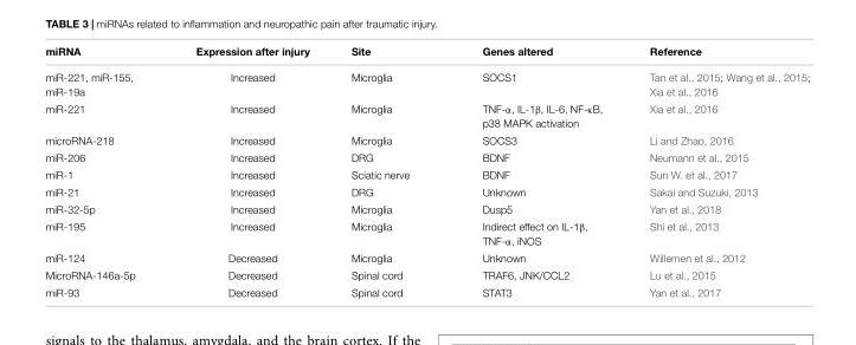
<table><thead><tr><td>miRNA</td><td>Expression after injury</td><td>Site</td><td>Genes altered</td><td>Reference</td></tr></thead><tbody><tr><td>miR-221, miR-155, miR-19a</td><td>Increased</td><td>Microglia</td><td>SOCS1</td><td>Tan et al., 2015; Wang et al., 2015; Xia et al., 2016</td></tr><tr><td>miR-221</td><td>Increased</td><td>Microglia</td><td>TNF-α, IL-1β, IL-6, NF-κB, p38 MAPK activation</td><td>Xia et al., 2016</td></tr><tr><td>microRNA-218</td><td>Increased</td><td>Microglia</td><td>SOCS3</td><td>Li and Zhao, 2016</td></tr><tr><td>miR-206</td><td>Increased</td><td>DRG</td><td>BDNF</td><td>Neumann et al., 2015</td></tr><tr><td>miR-1</td><td>Increased</td><td>Sciatic nerve</td><td>BDNF</td><td>Sun W. et al., 2017</td></tr><tr><td>miR-21</td><td>Increased</td><td>DRG</td><td>Unknown</td><td>Sakai and Suzuki, 2013</td></tr><tr><td>miR-32-5p</td><td>Increased</td><td>Microglia</td><td>Dusp5</td><td>Yan et al., 2018</td></tr><tr><td>miR-195</td><td>Increased</td><td>Microglia</td><td>Indirect effect on IL-1β, TNF-α, iNOS</td><td>Shi et al., 2013</td></tr><tr><td>miR-124</td><td>Decreased</td><td>Microglia</td><td>Unknown</td><td>Willemen et al., 2012</td></tr><tr><td>MicroRNA-146a-5p</td><td>Decreased</td><td>Spinal cord</td><td>TRAF6, JNK/CCL2</td><td>Lu et al., 2015</td></tr><tr><td>miR-93</td><td>Decreased</td><td>Spinal cord</td><td>STAT3</td><td>Yan et al., 2017</td></tr></tbody></table>